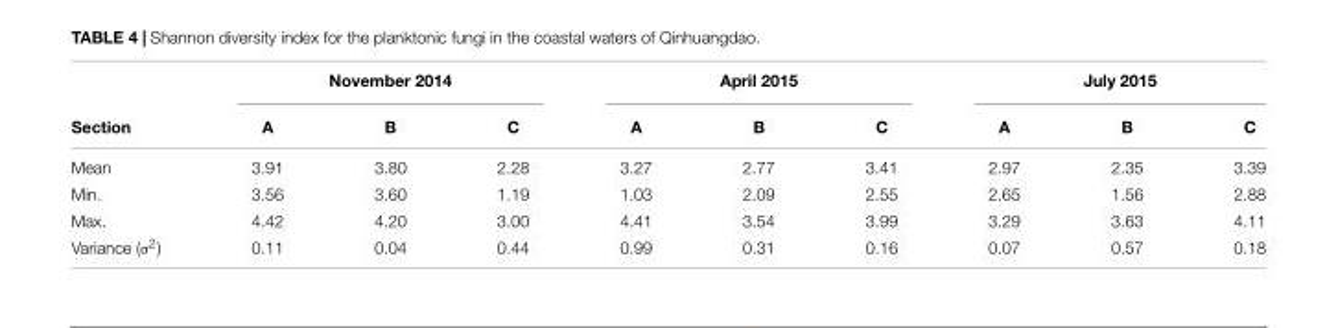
<table><thead><tr><td rowspan="2">Section</td><td colspan="3">November 2014</td><td colspan="3">April 2015</td><td colspan="3">July 2015</td></tr><tr><td>A</td><td>B</td><td>C</td><td>A</td><td>B</td><td>C</td><td>A</td><td>B</td><td>C</td></tr></thead><tbody><tr><td>Mean</td><td>3.91</td><td>3.80</td><td>2.28</td><td>3.27</td><td>2.77</td><td>3.41</td><td>2.97</td><td>2.35</td><td>3.39</td></tr><tr><td>Min.</td><td>3.56</td><td>3.60</td><td>1.19</td><td>1.03</td><td>2.09</td><td>2.55</td><td>2.65</td><td>1.56</td><td>2.88</td></tr><tr><td>Max.</td><td>4.42</td><td>4.20</td><td>3.00</td><td>4.41</td><td>3.54</td><td>3.99</td><td>3.29</td><td>3.63</td><td>4.11</td></tr><tr><td>Variance (σ<sup>2</sup>)</td><td>0.11</td><td>0.04</td><td>0.44</td><td>0.99</td><td>0.31</td><td>0.16</td><td>0.07</td><td>0.57</td><td>0.18</td></tr></tbody></table>